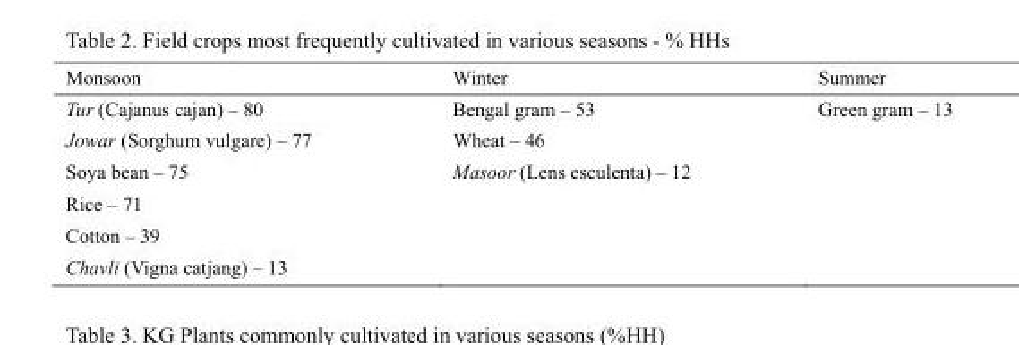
<table><thead><tr><td>Monsoon</td><td>Winter</td><td>Summer</td></tr></thead><tbody><tr><td>Tur (Cajanus cajan) – 80</td><td>Bengal gram – 53</td><td>Green gram – 13</td></tr><tr><td>Jowar (Sorghum vulgare) – 77</td><td>Wheat – 46</td><td></td></tr><tr><td>Soya bean – 75</td><td>Masoor (Lens esculenta) – 12</td><td></td></tr><tr><td colspan="3">Rice – 71</td></tr><tr><td colspan="3">Cotton – 39</td></tr><tr><td>Chavli (Vigna catjang) – 13</td><td></td><td></td></tr></tbody></table>